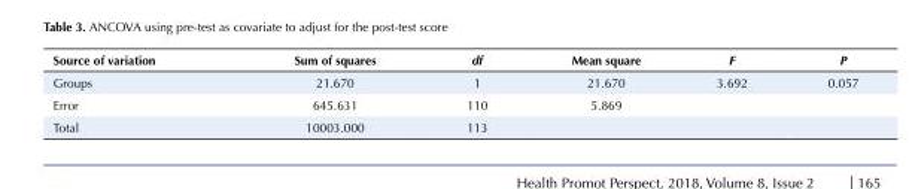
<table><tbody><tr><td>Source of variation</td><td>Sum of squares</td><td>df</td><td>Mean square</td><td>F</td><td>P</td></tr><tr><td>Groups</td><td>21.670</td><td>1</td><td>21.670</td><td>3.692</td><td>0.057</td></tr><tr><td>Error</td><td>645.631</td><td>110</td><td>5.869</td><td></td><td></td></tr><tr><td>Total</td><td>10003.000</td><td>113</td><td></td><td></td><td></td></tr></tbody></table>